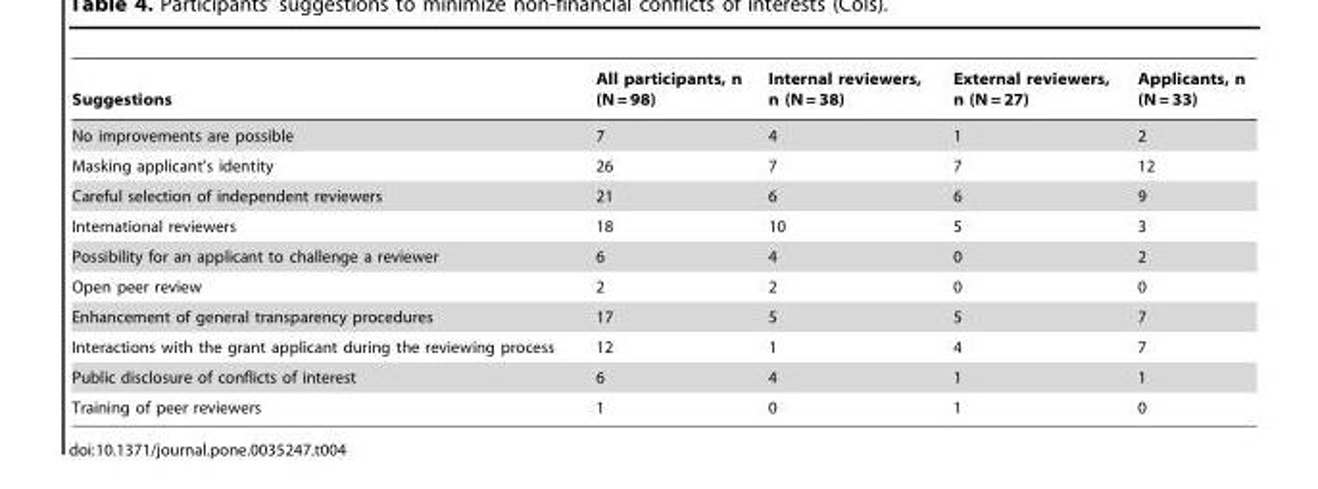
<table><thead><tr><td>Suggestions</td><td>All participants, n (N = 98)</td><td>Internal reviewers, n (N = 38)</td><td>External reviewers, n (N = 27)</td><td>Applicants, n (N = 33)</td></tr></thead><tbody><tr><td>No improvements are possible</td><td>7</td><td>4</td><td>1</td><td>2</td></tr><tr><td>Masking applicant’s identity</td><td>26</td><td>7</td><td>7</td><td>12</td></tr><tr><td>Careful selection of independent reviewers</td><td>21</td><td>6</td><td>6</td><td>9</td></tr><tr><td>International reviewers</td><td>18</td><td>10</td><td>5</td><td>3</td></tr><tr><td>Possibility for an applicant to challenge a reviewer</td><td>6</td><td>4</td><td>0</td><td>2</td></tr><tr><td>Open peer review</td><td>2</td><td>2</td><td>0</td><td>0</td></tr><tr><td>Enhancement of general transparency procedures</td><td>17</td><td>5</td><td>5</td><td>7</td></tr><tr><td>Interactions with the grant applicant during the reviewing process</td><td>12</td><td>1</td><td>4</td><td>7</td></tr><tr><td>Public disclosure of conflicts of interest</td><td>6</td><td>4</td><td>1</td><td>1</td></tr><tr><td>Training of peer reviewers</td><td>1</td><td>0</td><td>1</td><td>0</td></tr></tbody></table>